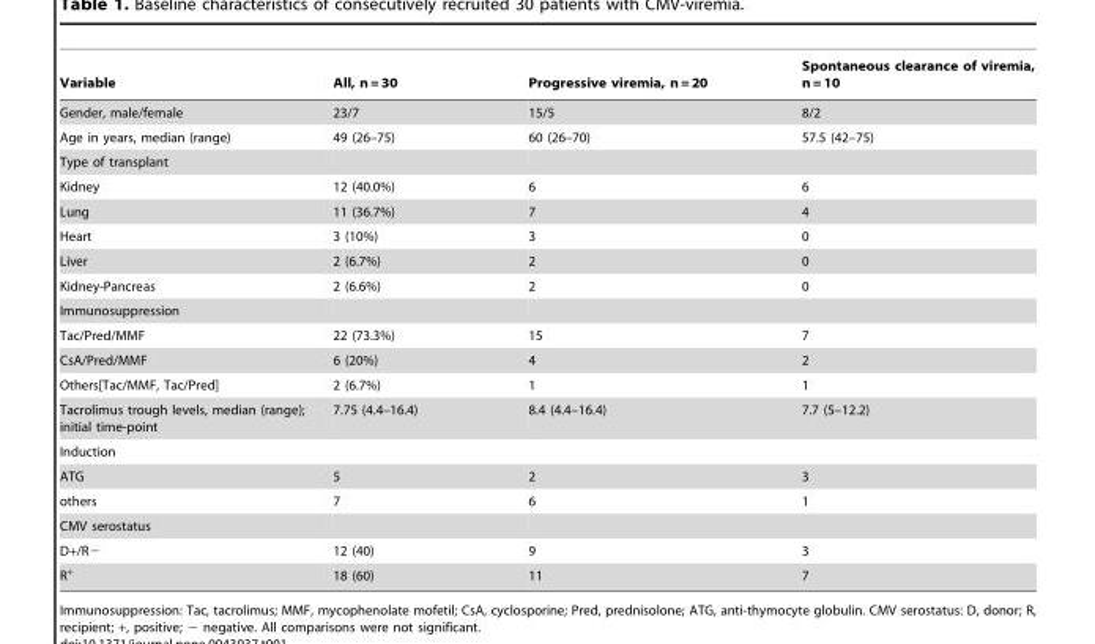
<table><thead><tr><td>Variable</td><td>All, n = 30</td><td>Progressive viremia, n = 20</td><td>Spontaneous clearance of viremia, n = 10</td></tr></thead><tbody><tr><td>Gender, male/female</td><td>23/7</td><td>15/5</td><td>8/2</td></tr><tr><td>Age in years, median (range)</td><td>49 (26–75)</td><td>60 (26–70)</td><td>57.5 (42–75)</td></tr><tr><td colspan="4">Type of transplant</td></tr><tr><td>Kidney</td><td>12 (40.0%)</td><td>6</td><td>6</td></tr><tr><td>Lung</td><td>11 (36.7%)</td><td>7</td><td>4</td></tr><tr><td>Heart</td><td>3 (10%)</td><td>3</td><td>0</td></tr><tr><td>Liver</td><td>2 (6.7%)</td><td>2</td><td>0</td></tr><tr><td>Kidney-Pancreas</td><td>2 (6.6%)</td><td>2</td><td>0</td></tr><tr><td colspan="4">Immunosuppression</td></tr><tr><td>Tac/Pred/MMF</td><td>22 (73.3%)</td><td>15</td><td>7</td></tr><tr><td>CsA/Pred/MMF</td><td>6 (20%)</td><td>4</td><td>2</td></tr><tr><td>Others[Tac/MMF, Tac/Pred]</td><td>2 (6.7%)</td><td>1</td><td>1</td></tr><tr><td>Tacrolimus trough levels, median (range); initial time-point</td><td>7.75 (4.4–16.4)</td><td>8.4 (4.4–16.4)</td><td>7.7 (5–12.2)</td></tr><tr><td colspan="4">Induction</td></tr><tr><td>ATG</td><td>5</td><td>2</td><td>3</td></tr><tr><td>others</td><td>7</td><td>6</td><td>1</td></tr><tr><td colspan="4">CMV serostatus</td></tr><tr><td>D+/R−</td><td>12 (40)</td><td>9</td><td>3</td></tr><tr><td>R<sup>+</sup></td><td>18 (60)</td><td>11</td><td>7</td></tr></tbody></table>